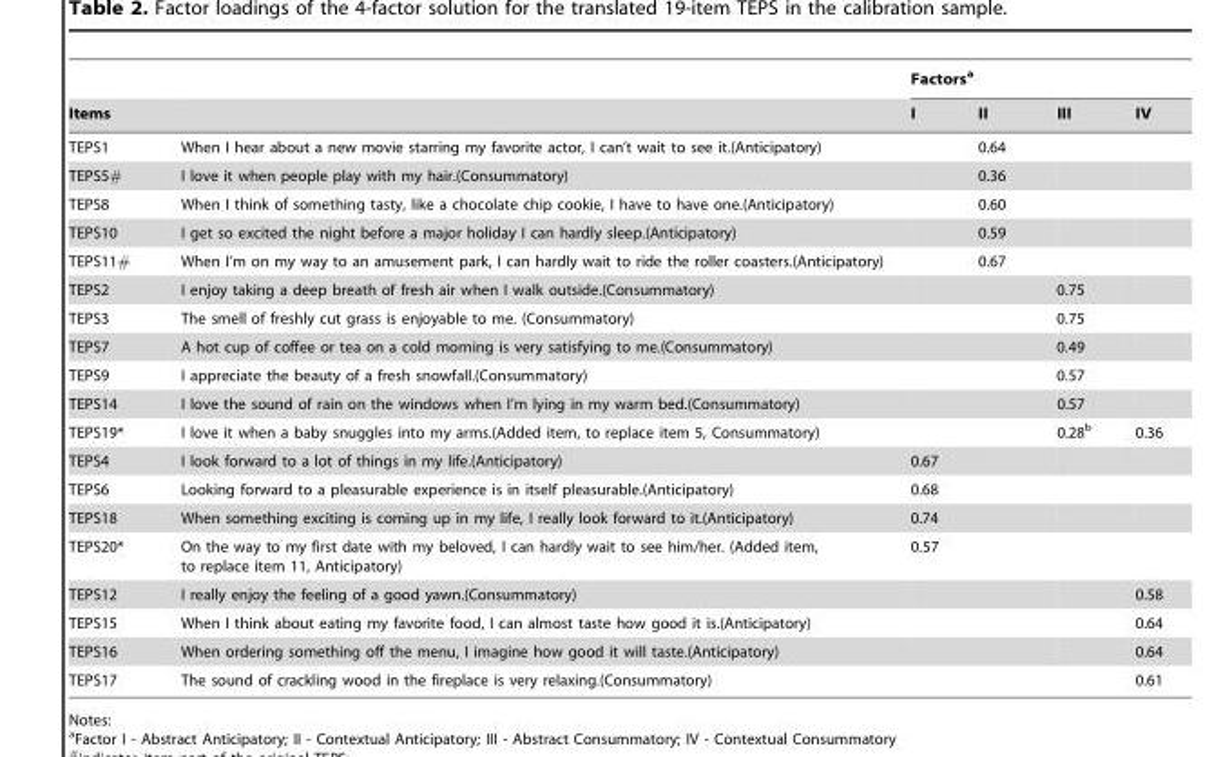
<table><thead><tr><td rowspan="2">Items</td><td rowspan="2"></td><td colspan="4">Factors<sup>a</sup></td></tr><tr><td>I</td><td>II</td><td>III</td><td>IV</td></tr></thead><tbody><tr><td>TEPS1</td><td>When I hear about a new movie starring my favorite actor, I can’t wait to see it.(Anticipatory)</td><td></td><td>0.64</td><td></td><td></td></tr><tr><td>TEPS5#</td><td>I love it when people play with my hair.(Consummatory)</td><td></td><td>0.36</td><td></td><td></td></tr><tr><td>TEPS8</td><td>When I think of something tasty, like a chocolate chip cookie, I have to have one.(Anticipatory)</td><td></td><td>0.60</td><td></td><td></td></tr><tr><td>TEPS10</td><td>I get so excited the night before a major holiday I can hardly sleep.(Anticipatory)</td><td></td><td>0.59</td><td></td><td></td></tr><tr><td>TEPS11#</td><td>When I’m on my way to an amusement park, I can hardly wait to ride the roller coasters.(Anticipatory)</td><td></td><td>0.67</td><td></td><td></td></tr><tr><td>TEPS2</td><td>I enjoy taking a deep breath of fresh air when I walk outside.(Consummatory)</td><td></td><td></td><td>0.75</td><td></td></tr><tr><td>TEPS3</td><td>The smell of freshly cut grass is enjoyable to me. (Consummatory)</td><td></td><td></td><td>0.75</td><td></td></tr><tr><td>TEPS7</td><td>A hot cup of coffee or tea on a cold morning is very satisfying to me.(Consummatory)</td><td></td><td></td><td>0.49</td><td></td></tr><tr><td>TEPS9</td><td>I appreciate the beauty of a fresh snowfall.(Consummatory)</td><td></td><td></td><td>0.57</td><td></td></tr><tr><td>TEPS14</td><td>I love the sound of rain on the windows when I’m lying in my warm bed.(Consummatory)</td><td></td><td></td><td>0.57</td><td></td></tr><tr><td>TEPS19*</td><td>I love it when a baby snuggles into my arms.(Added item, to replace item 5, Consummatory)</td><td></td><td></td><td>0.28<sup>b</sup></td><td>0.36</td></tr><tr><td>TEPS4</td><td>I look forward to a lot of things in my life.(Anticipatory)</td><td>0.67</td><td></td><td></td><td></td></tr><tr><td>TEPS6</td><td>Looking forward to a pleasurable experience is in itself pleasurable.(Anticipatory)</td><td>0.68</td><td></td><td></td><td></td></tr><tr><td>TEPS18</td><td>When something exciting is coming up in my life, I really look forward to it.(Anticipatory)</td><td>0.74</td><td></td><td></td><td></td></tr><tr><td>TEPS20*</td><td>On the way to my first date with my beloved, I can hardly wait to see him/her. (Added item, to replace item 11, Anticipatory)</td><td>0.57</td><td></td><td></td><td></td></tr><tr><td>TEPS12</td><td>I really enjoy the feeling of a good yawn.(Consummatory)</td><td></td><td></td><td></td><td>0.58</td></tr><tr><td>TEPS15</td><td>When I think about eating my favorite food, I can almost taste how good it is.(Anticipatory)</td><td></td><td></td><td></td><td>0.64</td></tr><tr><td>TEPS16</td><td>When ordering something off the menu, I imagine how good it will taste.(Anticipatory)</td><td></td><td></td><td></td><td>0.64</td></tr><tr><td>TEPS17</td><td>The sound of crackling wood in the fireplace is very relaxing.(Consummatory)</td><td></td><td></td><td></td><td>0.61</td></tr></tbody></table>